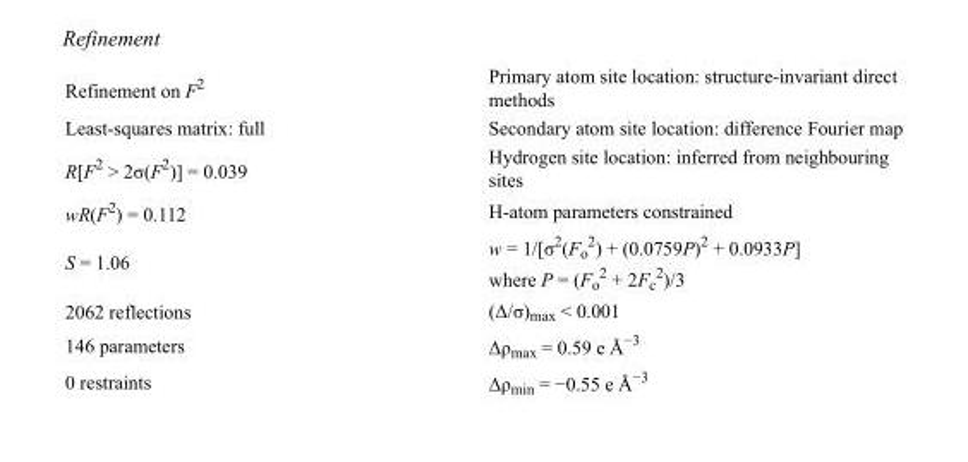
<table><tbody><tr><td>Refinement on F<sup>2</sup></td><td>Primary atom site location: structure-invariant direct methods</td></tr><tr><td>Least-squares matrix: full</td><td>Secondary atom site location: difference Fourier map</td></tr><tr><td>R[F<sup>2</sup> &gt; 2σ(F<sup>2</sup>)] = 0.039</td><td>Hydrogen site location: inferred from neighbouring sites</td></tr><tr><td>wR(F<sup>2</sup>) = 0.112</td><td>H-atom parameters constrained</td></tr><tr><td>S = 1.06</td><td>w = 1/[σ<sup>2</sup>(F<sub>o</sub> <sup>2</sup>) + (0.0759P)<sup>2</sup> + 0.0933P] where P = (F<sub>o</sub> <sup>2</sup> + 2F<sub>c</sub> <sup>2</sup>)/3</td></tr><tr><td>2062 reflections</td><td>(Δ/σ)<sub>max</sub> &lt; 0.001</td></tr><tr><td>146 parameters</td><td>Δρ<sub>max</sub> = 0.59 e Å<sup>−3</sup></td></tr><tr><td>0 restraints</td><td>Δρ<sub>min</sub> = −0.55 e Å<sup>−3</sup></td></tr></tbody></table>